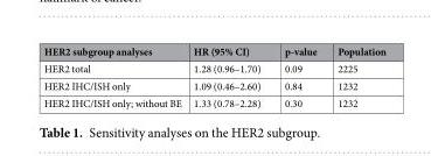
<table><thead><tr><td>HER2 subgroup analyses</td><td>HR (95% CI)</td><td>p-value</td><td>Population</td></tr></thead><tbody><tr><td>HER2 total</td><td>1.28 (0.96–1.70)</td><td>0.09</td><td>2225</td></tr><tr><td>HER2 IHC/ISH only</td><td>1.09 (0.46–2.60)</td><td>0.84</td><td>1232</td></tr><tr><td>HER2 IHC/ISH only; without BE</td><td>1.33 (0.78–2.28)</td><td>0.30</td><td>1232</td></tr></tbody></table>